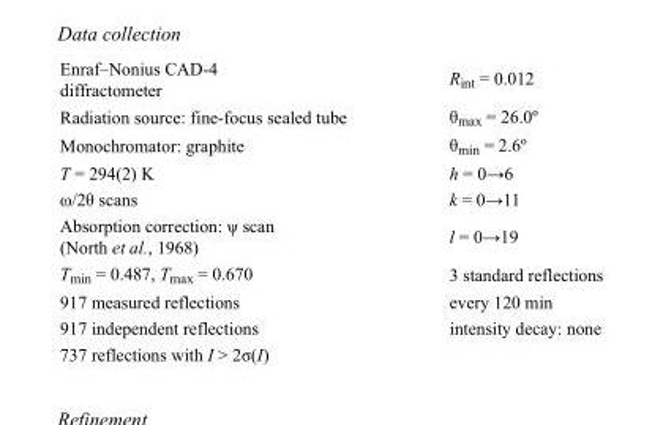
<table><tbody><tr><td>Enraf–Nonius CAD-4 diffractometer</td><td>R<sub>int</sub> = 0.012</td></tr><tr><td>Radiation source: fine-focus sealed tube</td><td>θ<sub>max</sub> = 26.0º</td></tr><tr><td>Monochromator: graphite</td><td>θ<sub>min</sub> = 2.6º</td></tr><tr><td>T = 294(2) K</td><td>h = 0→6</td></tr><tr><td>ω/2θ scans</td><td>k = 0→11</td></tr><tr><td>Absorption correction: ψ scan (North et al., 1968)</td><td>l = 0→19</td></tr><tr><td>T<sub>min</sub> = 0.487, T<sub>max</sub> = 0.670</td><td>3 standard reflections</td></tr><tr><td>917 measured reflections</td><td>every 120 min</td></tr><tr><td>917 independent reflections</td><td>intensity decay: none</td></tr><tr><td>737 reflections with I &gt; 2σ(I)</td><td></td></tr></tbody></table>